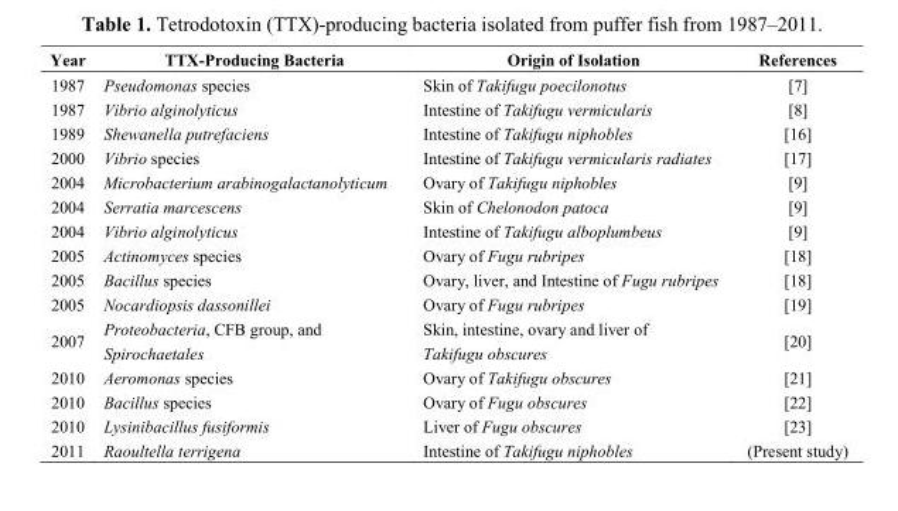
<table><thead><tr><td>Year</td><td>TTX-Producing Bacteria</td><td>Origin of Isolation</td><td>References</td></tr></thead><tbody><tr><td>1987</td><td>Pseudomonas species</td><td>Skin of Takifugu poecilonotus</td><td>[7]</td></tr><tr><td>1987</td><td>Vibrio alginolyticus</td><td>Intestine of Takifugu vermicularis</td><td>[8]</td></tr><tr><td>1989</td><td>Shewanella putrefaciens</td><td>Intestine of Takifugu niphobles</td><td>[16]</td></tr><tr><td>2000</td><td>Vibrio species</td><td>Intestine of Takifugu vermicularis radiates</td><td>[17]</td></tr><tr><td>2004</td><td>Microbacterium arabinogalactanolyticum</td><td>Ovary of Takifugu niphobles</td><td>[9]</td></tr><tr><td>2004</td><td>Serratia marcescens</td><td>Skin of Chelonodon patoca</td><td>[9]</td></tr><tr><td>2004</td><td>Vibrio alginolyticus</td><td>Intestine of Takifugu alboplumbeus</td><td>[9]</td></tr><tr><td>2005</td><td>Actinomyces species</td><td>Ovary of Fugu rubripes</td><td>[18]</td></tr><tr><td>2005</td><td>Bacillus species</td><td>Ovary, liver, and Intestine of Fugu rubripes</td><td>[18]</td></tr><tr><td>2005</td><td>Nocardiopsis dassonillei</td><td>Ovary of Fugu rubripes</td><td>[19]</td></tr><tr><td>2007</td><td>Proteobacteria, CFB group, and Spirochaetales</td><td>Skin, intestine, ovary and liver of Takifugu obscures</td><td>[20]</td></tr><tr><td>2010</td><td>Aeromonas species</td><td>Ovary of Takifugu obscures</td><td>[21]</td></tr><tr><td>2010</td><td>Bacillus species</td><td>Ovary of Fugu obscures</td><td>[22]</td></tr><tr><td>2010</td><td>Lysinibacillus fusiformis</td><td>Liver of Fugu obscures</td><td>[23]</td></tr><tr><td>2011</td><td>Raoultella terrigena</td><td>Intestine of Takifugu niphobles</td><td>(Present study)</td></tr></tbody></table>